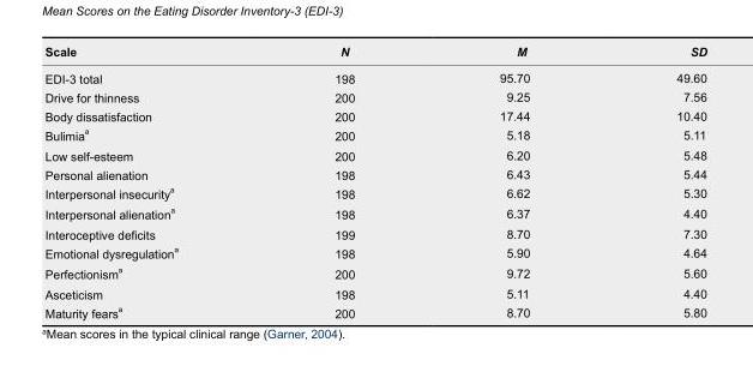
<table><thead><tr><td>Scale</td><td>N</td><td>M</td><td>SD</td></tr></thead><tbody><tr><td>EDI-3 total</td><td>198</td><td>95.70</td><td>49.60</td></tr><tr><td>Drive for thinness</td><td>200</td><td>9.25</td><td>7.56</td></tr><tr><td>Body dissatisfaction</td><td>200</td><td>17.44</td><td>10.40</td></tr><tr><td>Bulimia <sup>a</sup></td><td>200</td><td>5.18</td><td>5.11</td></tr><tr><td>Low self-esteem</td><td>200</td><td>6.20</td><td>5.48</td></tr><tr><td>Personal alienation</td><td>198</td><td>6.43</td><td>5.44</td></tr><tr><td>Interpersonal insecurity <sup>a</sup></td><td>198</td><td>6.62</td><td>5.30</td></tr><tr><td>Interpersonal alienation <sup>a</sup></td><td>198</td><td>6.37</td><td>4.40</td></tr><tr><td>Interoceptive deficits</td><td>199</td><td>8.70</td><td>7.30</td></tr><tr><td>Emotional dysregulation <sup>a</sup></td><td>198</td><td>5.90</td><td>4.64</td></tr><tr><td>Perfectionism <sup>a</sup></td><td>200</td><td>9.72</td><td>5.60</td></tr><tr><td>Asceticism</td><td>198</td><td>5.11</td><td>4.40</td></tr><tr><td>Maturity fears <sup>a</sup></td><td>200</td><td>8.70</td><td>5.80</td></tr></tbody></table>